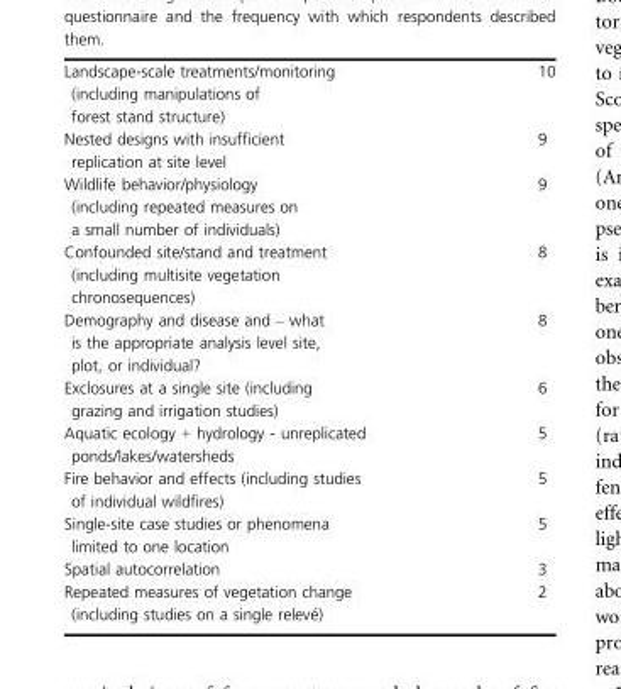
<table><tbody><tr><td>Landscape-scale treatments/monitoring (including manipulations of forest stand structure)</td><td>10</td></tr><tr><td>Nested designs with insufficient replication at site level</td><td>9</td></tr><tr><td>Wildlife behavior/physiology (including repeated measures on a small number of individuals)</td><td>9</td></tr><tr><td>Confounded site/stand and treatment (including multisite vegetation chronosequences)</td><td>8</td></tr><tr><td>Demography and disease and – what is the appropriate analysis level site, plot, or individual?</td><td>8</td></tr><tr><td>Exclosures at a single site (including grazing and irrigation studies)</td><td>6</td></tr><tr><td>Aquatic ecology + hydrology - unreplicated ponds/lakes/watersheds</td><td>5</td></tr><tr><td>Fire behavior and effects (including studies of individual wildfires)</td><td>5</td></tr><tr><td>Single-site case studies or phenomena limited to one location</td><td>5</td></tr><tr><td>Spatial autocorrelation</td><td>3</td></tr><tr><td>Repeated measures of vegetation change (including studies on a single relev�e)</td><td>2</td></tr></tbody></table>